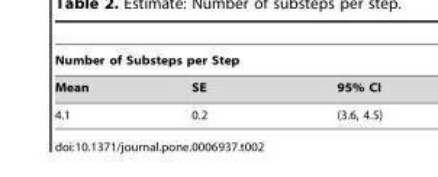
<table><thead><tr><td colspan="3">Number of Substeps per Step</td></tr><tr><td>Mean</td><td>SE</td><td>95% CI</td></tr></thead><tbody><tr><td>4.1</td><td>0.2</td><td>(3.6, 4.5)</td></tr></tbody></table>